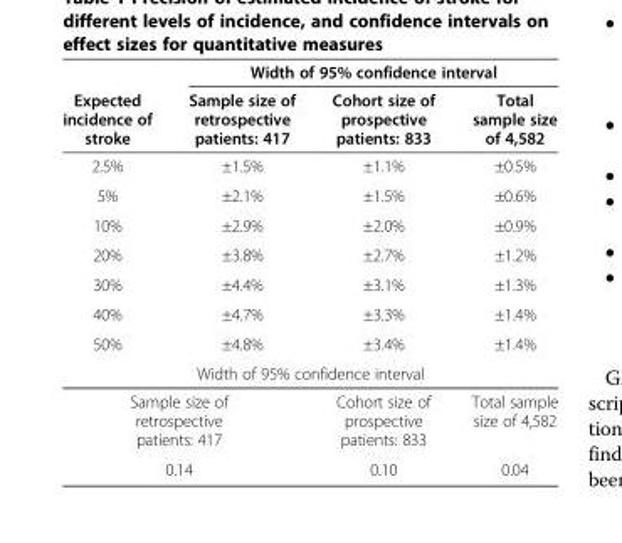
<table><thead><tr><td rowspan="2">Expected incidence of stroke</td><td colspan="3">Width of 95% confidence interval</td></tr><tr><td>Sample size of retrospective patients: 417</td><td>Cohort size of prospective patients: 833</td><td>Total sample size of 4,582</td></tr></thead><tbody><tr><td>2.5%</td><td>±1.5%</td><td>±1.1%</td><td>±0.5%</td></tr><tr><td>5%</td><td>±2.1%</td><td>±1.5%</td><td>±0.6%</td></tr><tr><td>10%</td><td>±2.9%</td><td>±2.0%</td><td>±0.9%</td></tr><tr><td>20%</td><td>±3.8%</td><td>±2.7%</td><td>±1.2%</td></tr><tr><td>30%</td><td>±4.4%</td><td>±3.1%</td><td>±1.3%</td></tr><tr><td>40%</td><td>±4.7%</td><td>±3.3%</td><td>±1.4%</td></tr><tr><td>50%</td><td>±4.8%</td><td>±3.4%</td><td>±1.4%</td></tr><tr><td colspan="4">Width of 95% confidence interval</td></tr><tr><td colspan="2">Sample size of retrospective patients: 417</td><td>Cohort size of prospective patients: 833</td><td>Total sample size of 4,582</td></tr><tr><td colspan="2">0.14</td><td>0.10</td><td>0.04</td></tr></tbody></table>